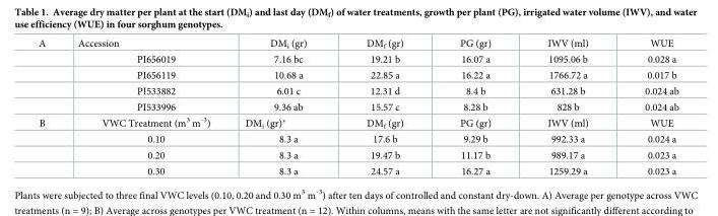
<table><tbody><tr><td rowspan="5">A</td><td>Accession</td><td>DM<sub>i</sub> (gr)</td><td>DM<sub>f</sub> (gr)</td><td>PG (gr)</td><td>IWV (ml)</td><td>WUE</td></tr><tr><td>PI656019</td><td>7.16 bc</td><td>19.21 b</td><td>16.07 a</td><td>1095.06 b</td><td>0.028 a</td></tr><tr><td>PI656119</td><td>10.68 a</td><td>22.85 a</td><td>16.22 a</td><td>1766.72 a</td><td>0.017 b</td></tr><tr><td>PI533882</td><td>6.01 c</td><td>12.31 d</td><td>8.4 b</td><td>631.28 b</td><td>0.024 ab</td></tr><tr><td>PI533996</td><td>9.36 ab</td><td>15.57 c</td><td>8.28 b</td><td>828 b</td><td>0.024 ab</td></tr><tr><td rowspan="4">B</td><td>VWC Treatment (m<sup>3</sup> m<sup>-3</sup>)</td><td>DM<sub>i</sub> (gr)*</td><td>DM<sub>f</sub> (gr)</td><td>PG (gr)</td><td>IWV (ml)</td><td>WUE</td></tr><tr><td>0.10</td><td>8.3 a</td><td>17.6 b</td><td>9.29 b</td><td>992.33 a</td><td>0.024 a</td></tr><tr><td>0.20</td><td>8.3 a</td><td>19.47 b</td><td>11.17 b</td><td>989.17 a</td><td>0.023 a</td></tr><tr><td>0.30</td><td>8.3 a</td><td>24.57 a</td><td>16.27 a</td><td>1259.29 a</td><td>0.023 a</td></tr></tbody></table>